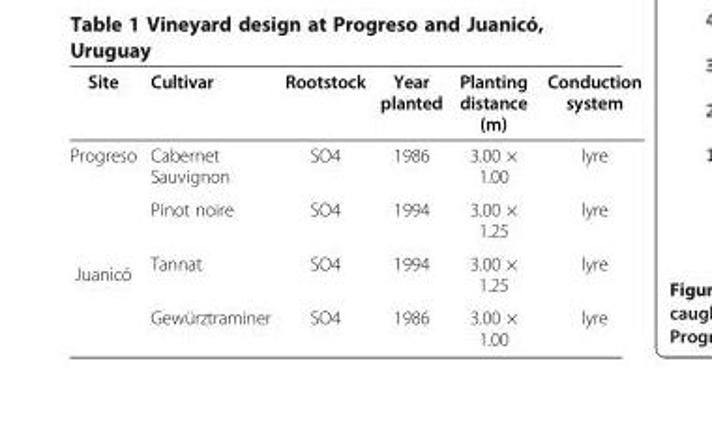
<table><thead><tr><td>Site</td><td>Cultivar</td><td>Rootstock</td><td>Year planted</td><td>Planting distance (m)</td><td>Conduction system</td></tr></thead><tbody><tr><td rowspan="2">Progreso</td><td>Cabernet Sauvignon</td><td>SO4</td><td>1986</td><td>3.00 × 1.00</td><td>lyre</td></tr><tr><td>Pinot noire</td><td>SO4</td><td>1994</td><td>3.00 × 1.25</td><td>lyre</td></tr><tr><td rowspan="2">Juanicó</td><td>Tannat</td><td>SO4</td><td>1994</td><td>3.00 × 1.25</td><td>lyre</td></tr><tr><td>Gewürztraminer</td><td>SO4</td><td>1986</td><td>3.00 × 1.00</td><td>lyre</td></tr></tbody></table>